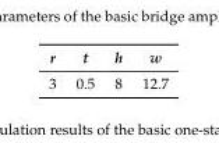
<table><thead><tr><td>r</td><td>t</td><td>h</td><td>w</td></tr></thead><tbody><tr><td>3</td><td>0.5</td><td>8</td><td>12.7</td></tr></tbody></table>